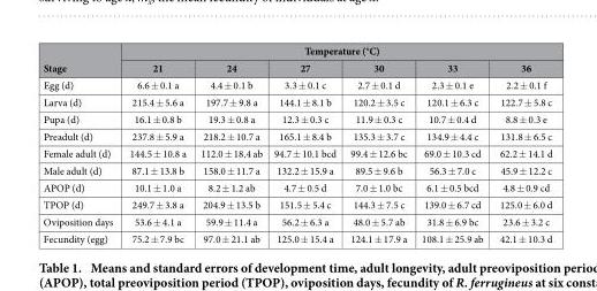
<table><thead><tr><td rowspan="2">Stage</td><td colspan="6">Temperature (°C)</td></tr><tr><td>21</td><td>24</td><td>27</td><td>30</td><td>33</td><td>36</td></tr></thead><tbody><tr><td>Egg (d)</td><td>6.6 ± 0.1 a</td><td>4.4 ± 0.1 b</td><td>3.3 ± 0.1 c</td><td>2.7 ± 0.1 d</td><td>2.3 ± 0.1 e</td><td>2.2 ± 0.1 f</td></tr><tr><td>Larva (d)</td><td>215.4 ± 5.6 a</td><td>197.7 ± 9.8 a</td><td>144.1 ± 8.1 b</td><td>120.2 ± 3.5 c</td><td>120.1 ± 6.3 c</td><td>122.7 ± 5.8 c</td></tr><tr><td>Pupa (d)</td><td>16.1 ± 0.8 b</td><td>19.3 ± 0.8 a</td><td>12.3 ± 0.3 c</td><td>11.9 ± 0.3 c</td><td>10.7 ± 0.4 d</td><td>8.8 ± 0.3 e</td></tr><tr><td>Preadult (d)</td><td>237.8 ± 5.9 a</td><td>218.2 ± 10.7 a</td><td>165.1 ± 8.4 b</td><td>135.3 ± 3.7 c</td><td>134.9 ± 4.4 c</td><td>131.8 ± 6.5 c</td></tr><tr><td>Female adult (d)</td><td>144.5 ± 10.8 a</td><td>112.0 ± 18.4 ab</td><td>94.7 ± 10.1 bcd</td><td>99.4 ± 12.6 bc</td><td>69.0 ± 10.3 cd</td><td>62.2 ± 14.1 d</td></tr><tr><td>Male adult (d)</td><td>87.1 ± 13.8 b</td><td>158.0 ± 11.7 a</td><td>132.2 ± 15.9 a</td><td>89.5 ± 9.6 b</td><td>56.3 ± 7.0 c</td><td>45.9 ± 12.2 c</td></tr><tr><td>APOP (d)</td><td>10.1 ± 1.0 a</td><td>8.2 ± 1.2 ab</td><td>4.7 ± 0.5 d</td><td>7.0 ± 1.0 bc</td><td>6.1 ± 0.5 bcd</td><td>4.8 ± 0.9 cd</td></tr><tr><td>TPOP (d)</td><td>249.7 ± 3.8 a</td><td>204.9 ± 13.5 b</td><td>151.5 ± 5.4 c</td><td>144.3 ± 7.5 c</td><td>139.0 ± 6.7 cd</td><td>125.0 ± 6.0 d</td></tr><tr><td>Oviposition days</td><td>53.6 ± 4.1 a</td><td>59.9 ± 11.4 a</td><td>56.2 ± 6.3 a</td><td>48.0 ± 5.7 ab</td><td>31.8 ± 6.9 bc</td><td>23.6 ± 3.2 c</td></tr><tr><td>Fecundity (egg)</td><td>75.2 ± 7.9 bc</td><td>97.0 ± 21.1 ab</td><td>125.0 ± 15.4 a</td><td>124.1 ± 17.9 a</td><td>108.1 ± 25.9 ab</td><td>42.1 ± 10.3 d</td></tr></tbody></table>